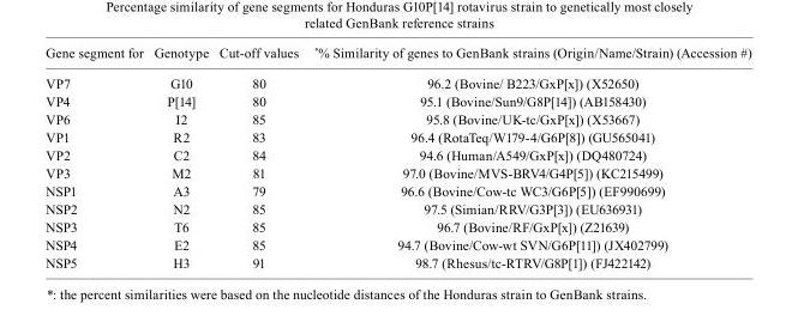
<table><thead><tr><td>Gene segment for</td><td>Genotype</td><td>Cut-off values</td><td>*% Similarity of genes to GenBank strains (Origin/Name/Strain) (Accession #)</td></tr></thead><tbody><tr><td>VP7</td><td>G10</td><td>80</td><td>96.2 (Bovine/ B223/GxP[x]) (X52650)</td></tr><tr><td>VP4</td><td>P[14]</td><td>80</td><td>95.1 (Bovine/Sun9/G8P[14]) (AB158430)</td></tr><tr><td>VP6</td><td>I2</td><td>85</td><td>95.8 (Bovine/UK-tc/GxP[x]) (X53667)</td></tr><tr><td>VP1</td><td>R2</td><td>83</td><td>96.4 (RotaTeq/W179-4/G6P[8]) (GU565041)</td></tr><tr><td>VP2</td><td>C2</td><td>84</td><td>94.6 (Human/A549/GxP[x]) (DQ480724)</td></tr><tr><td>VP3</td><td>M2</td><td>81</td><td>97.0 (Bovine/MVS-BRV4/G4P[5]) (KC215499)</td></tr><tr><td>NSP1</td><td>A3</td><td>79</td><td>96.6 (Bovine/Cow-tc WC3/G6P[5]) (EF990699)</td></tr><tr><td>NSP2</td><td>N2</td><td>85</td><td>97.5 (Simian/RRV/G3P[3]) (EU636931)</td></tr><tr><td>NSP3</td><td>T6</td><td>85</td><td>96.7 (Bovine/RF/GxP[x]) (Z21639)</td></tr><tr><td>NSP4</td><td>E2</td><td>85</td><td>94.7 (Bovine/Cow-wt SVN/G6P[11]) (JX402799)</td></tr><tr><td>NSP5</td><td>H3</td><td>91</td><td>98.7 (Rhesus/tc-RTRV/G8P[1]) (FJ422142)</td></tr></tbody></table>